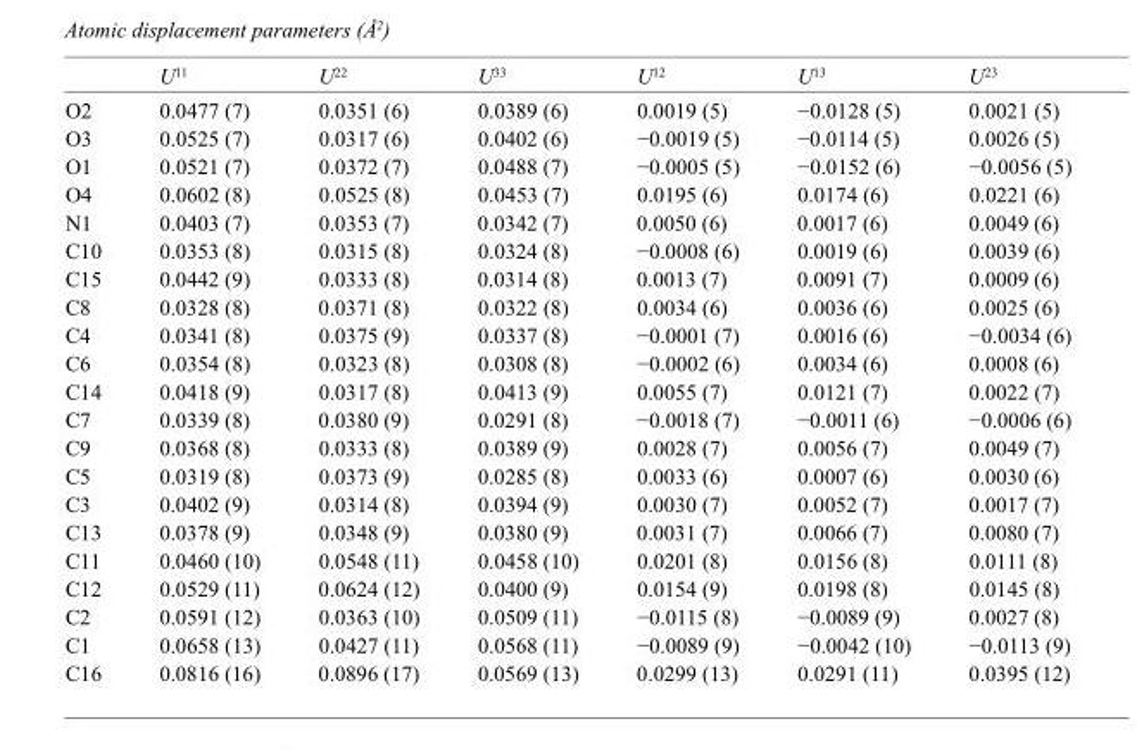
<table><thead><tr><td></td><td>U<sup>11</sup></td><td>U<sup>22</sup></td><td>U<sup>33</sup></td><td>U<sup>12</sup></td><td>U<sup>13</sup></td><td>U<sup>23</sup></td></tr></thead><tbody><tr><td>O2</td><td>0.0477 (7)</td><td>0.0351 (6)</td><td>0.0389 (6)</td><td>0.0019 (5)</td><td>−0.0128 (5)</td><td>0.0021 (5)</td></tr><tr><td>O3</td><td>0.0525 (7)</td><td>0.0317 (6)</td><td>0.0402 (6)</td><td>−0.0019 (5)</td><td>−0.0114 (5)</td><td>0.0026 (5)</td></tr><tr><td>O1</td><td>0.0521 (7)</td><td>0.0372 (7)</td><td>0.0488 (7)</td><td>−0.0005 (5)</td><td>−0.0152 (6)</td><td>−0.0056 (5)</td></tr><tr><td>O4</td><td>0.0602 (8)</td><td>0.0525 (8)</td><td>0.0453 (7)</td><td>0.0195 (6)</td><td>0.0174 (6)</td><td>0.0221 (6)</td></tr><tr><td>N1</td><td>0.0403 (7)</td><td>0.0353 (7)</td><td>0.0342 (7)</td><td>0.0050 (6)</td><td>0.0017 (6)</td><td>0.0049 (6)</td></tr><tr><td>C10</td><td>0.0353 (8)</td><td>0.0315 (8)</td><td>0.0324 (8)</td><td>−0.0008 (6)</td><td>0.0019 (6)</td><td>0.0039 (6)</td></tr><tr><td>C15</td><td>0.0442 (9)</td><td>0.0333 (8)</td><td>0.0314 (8)</td><td>0.0013 (7)</td><td>0.0091 (7)</td><td>0.0009 (6)</td></tr><tr><td>C8</td><td>0.0328 (8)</td><td>0.0371 (8)</td><td>0.0322 (8)</td><td>0.0034 (6)</td><td>0.0036 (6)</td><td>0.0025 (6)</td></tr><tr><td>C4</td><td>0.0341 (8)</td><td>0.0375 (9)</td><td>0.0337 (8)</td><td>−0.0001 (7)</td><td>0.0016 (6)</td><td>−0.0034 (6)</td></tr><tr><td>C6</td><td>0.0354 (8)</td><td>0.0323 (8)</td><td>0.0308 (8)</td><td>−0.0002 (6)</td><td>0.0034 (6)</td><td>0.0008 (6)</td></tr><tr><td>C14</td><td>0.0418 (9)</td><td>0.0317 (8)</td><td>0.0413 (9)</td><td>0.0055 (7)</td><td>0.0121 (7)</td><td>0.0022 (7)</td></tr><tr><td>C7</td><td>0.0339 (8)</td><td>0.0380 (9)</td><td>0.0291 (8)</td><td>−0.0018 (7)</td><td>−0.0011 (6)</td><td>−0.0006 (6)</td></tr><tr><td>C9</td><td>0.0368 (8)</td><td>0.0333 (8)</td><td>0.0389 (9)</td><td>0.0028 (7)</td><td>0.0056 (7)</td><td>0.0049 (7)</td></tr><tr><td>C5</td><td>0.0319 (8)</td><td>0.0373 (9)</td><td>0.0285 (8)</td><td>0.0033 (6)</td><td>0.0007 (6)</td><td>0.0030 (6)</td></tr><tr><td>C3</td><td>0.0402 (9)</td><td>0.0314 (8)</td><td>0.0394 (9)</td><td>0.0030 (7)</td><td>0.0052 (7)</td><td>0.0017 (7)</td></tr><tr><td>C13</td><td>0.0378 (9)</td><td>0.0348 (9)</td><td>0.0380 (9)</td><td>0.0031 (7)</td><td>0.0066 (7)</td><td>0.0080 (7)</td></tr><tr><td>C11</td><td>0.0460 (10)</td><td>0.0548 (11)</td><td>0.0458 (10)</td><td>0.0201 (8)</td><td>0.0156 (8)</td><td>0.0111 (8)</td></tr><tr><td>C12</td><td>0.0529 (11)</td><td>0.0624 (12)</td><td>0.0400 (9)</td><td>0.0154 (9)</td><td>0.0198 (8)</td><td>0.0145 (8)</td></tr><tr><td>C2</td><td>0.0591 (12)</td><td>0.0363 (10)</td><td>0.0509 (11)</td><td>−0.0115 (8)</td><td>−0.0089 (9)</td><td>0.0027 (8)</td></tr><tr><td>C1</td><td>0.0658 (13)</td><td>0.0427 (11)</td><td>0.0568 (11)</td><td>−0.0089 (9)</td><td>−0.0042 (10)</td><td>−0.0113 (9)</td></tr><tr><td>C16</td><td>0.0816 (16)</td><td>0.0896 (17)</td><td>0.0569 (13)</td><td>0.0299 (13)</td><td>0.0291 (11)</td><td>0.0395 (12)</td></tr></tbody></table>